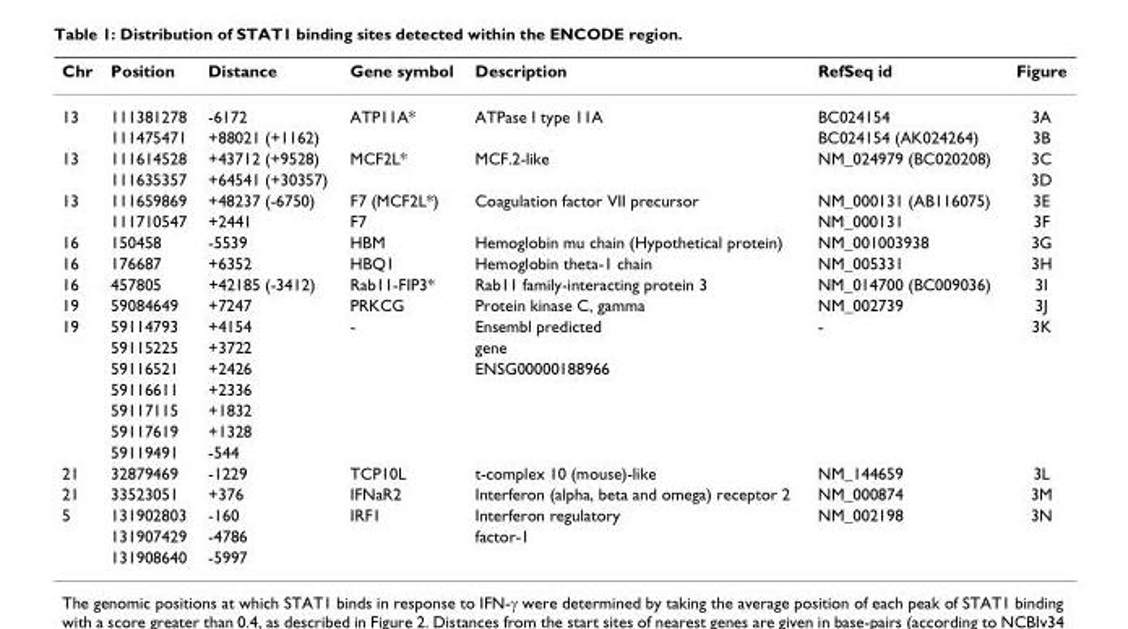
<table><thead><tr><td>Chr</td><td>Position</td><td>Distance</td><td>Gene symbol</td><td>Description</td><td>RefSeq id</td><td>Figure</td></tr></thead><tbody><tr><td rowspan="2">13</td><td>111381278</td><td>-6172</td><td>ATP11A*</td><td>ATPase I type 11A</td><td>BC024154</td><td>3A</td></tr><tr><td>111475471</td><td>+88021 (+1162)</td><td></td><td></td><td>BC024154 (AK024264)</td><td>3B</td></tr><tr><td rowspan="2">13</td><td>111614528</td><td>+43712 (+9528)</td><td>MCF2L*</td><td>MCF.2-like</td><td>NM_024979 (BC020208)</td><td>3C</td></tr><tr><td>111635357</td><td>+64541 (+30357)</td><td></td><td></td><td></td><td>3D</td></tr><tr><td rowspan="2">13</td><td>111659869</td><td>+48237 (-6750)</td><td>F7 (MCF2L*)</td><td>Coagulation factor VII precursor</td><td>NM_000131 (AB116075)</td><td>3E</td></tr><tr><td>111710547</td><td>+2441</td><td>F7</td><td></td><td>NM_000131</td><td>3F</td></tr><tr><td>16</td><td>150458</td><td>-5539</td><td>HBM</td><td>Hemoglobin mu chain (Hypothetical protein)</td><td>NM_001003938</td><td>3G</td></tr><tr><td>16</td><td>176687</td><td>+6352</td><td>HBQ1</td><td>Hemoglobin theta-1 chain</td><td>NM_005331</td><td>3H</td></tr><tr><td>16</td><td>457805</td><td>+42185 (-3412)</td><td>Rab11-FIP3*</td><td>Rab11 family-interacting protein 3</td><td>NM_014700 (BC009036)</td><td>3I</td></tr><tr><td>19</td><td>59084649</td><td>+7247</td><td>PRKCG</td><td>Protein kinase C, gamma</td><td>NM_002739</td><td>3J</td></tr><tr><td rowspan="7">19</td><td>59114793</td><td>+4154</td><td>-</td><td>Ensembl predicted</td><td>-</td><td>3K</td></tr><tr><td>59115225</td><td>+3722</td><td></td><td>gene</td><td></td><td></td></tr><tr><td>59116521</td><td>+2426</td><td></td><td>ENSG00000188966</td><td></td><td></td></tr><tr><td>59116611</td><td>+2336</td><td></td><td></td><td></td><td></td></tr><tr><td>59117115</td><td>+1832</td><td></td><td></td><td></td><td></td></tr><tr><td>59117619</td><td>+1328</td><td></td><td></td><td></td><td></td></tr><tr><td>59119491</td><td>-544</td><td></td><td></td><td></td><td></td></tr><tr><td>21</td><td>32879469</td><td>-1229</td><td>TCP10L</td><td>t-complex 10 (mouse)-like</td><td>NM_144659</td><td>3L</td></tr><tr><td>21</td><td>33523051</td><td>+376</td><td>IFNaR2</td><td>Interferon (alpha, beta and omega) receptor 2</td><td>NM_000874</td><td>3M</td></tr><tr><td rowspan="3">5</td><td>131902803</td><td>-160</td><td>IRF1</td><td>Interferon regulatory</td><td>NM_002198</td><td>3N</td></tr><tr><td>131907429</td><td>-4786</td><td></td><td>factor-1</td><td></td><td></td></tr><tr><td>131908640</td><td>-5997</td><td></td><td></td><td></td><td></td></tr></tbody></table>